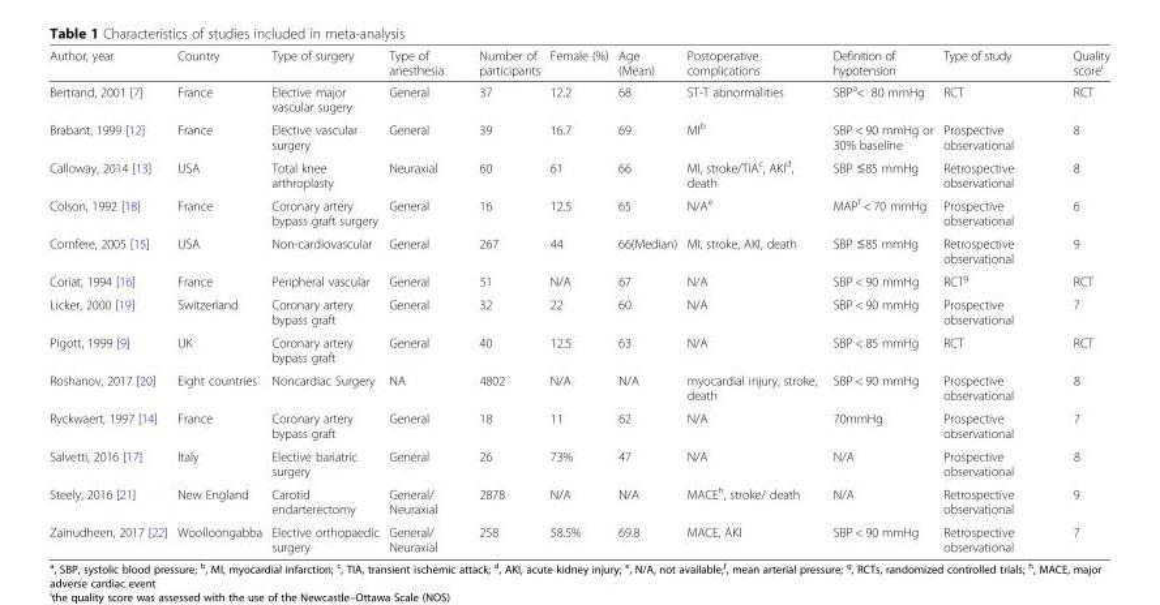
<table><thead><tr><td>Author, year</td><td>Country</td><td>Type of surgery</td><td>Type of anesthesia</td><td>Number of participants</td><td>Female (%)</td><td>Age (Mean)</td><td>Postoperative complications</td><td>Definition of hypotension</td><td>Type of study</td><td>Quality score<sup>i</sup></td></tr></thead><tbody><tr><td>Bertrand, 2001 [7]</td><td>France</td><td>Elective major vascular sugery</td><td>General</td><td>37</td><td>12.2</td><td>68</td><td>ST-T abnormalities</td><td>SBP<sup>a</sup>&lt; 80 mmHg</td><td>RCT</td><td>RCT</td></tr><tr><td>Brabant, 1999 [12]</td><td>France</td><td>Elective vascular surgery</td><td>General</td><td>39</td><td>16.7</td><td>69</td><td>MI<sup>b</sup></td><td>SBP &lt; 90 mmHg or 30% baseline</td><td>Prospective observational</td><td>8</td></tr><tr><td>Calloway, 2014 [13]</td><td>USA</td><td>Total knee arthroplasty</td><td>Neuraxial</td><td>60</td><td>61</td><td>66</td><td>MI, stroke/TIA<sup>c</sup>, AKI<sup>d</sup>, death</td><td>SBP ≤85 mmHg</td><td>Retrospective observational</td><td>8</td></tr><tr><td>Colson, 1992 [18]</td><td>France</td><td>Coronary artery bypass graft surgery</td><td>General</td><td>16</td><td>12.5</td><td>65</td><td>N/A<sup>e</sup></td><td>MAP<sup>f</sup> &lt; 70 mmHg</td><td>Prospective observational</td><td>6</td></tr><tr><td>Comfere, 2005 [15]</td><td>USA</td><td>Non-cardiovascular</td><td>General</td><td>267</td><td>44</td><td>66(Median)</td><td>MI, stroke, AKI, death</td><td>SBP ≤85 mmHg</td><td>Retrospective observational</td><td>9</td></tr><tr><td>Coriat, 1994 [16]</td><td>France</td><td>Peripheral vascular</td><td>General</td><td>51</td><td>N/A</td><td>67</td><td>N/A</td><td>SBP &lt; 90 mmHg</td><td>RCT<sup>g</sup></td><td>RCT</td></tr><tr><td>Licker, 2000 [19]</td><td>Switzerland</td><td>Coronary artery bypass graft</td><td>General</td><td>32</td><td>22</td><td>60</td><td>N/A</td><td>SBP &lt; 90 mmHg</td><td>Prospective observational</td><td>7</td></tr><tr><td>Pigott, 1999 [9]</td><td>UK</td><td>Coronary artery bypass graft</td><td>General</td><td>40</td><td>12.5</td><td>63</td><td>N/A</td><td>SBP &lt; 85 mmHg</td><td>RCT</td><td>RCT</td></tr><tr><td>Roshanov, 2017 [20]</td><td>Eight countries</td><td>Noncardiac Surgery</td><td>NA</td><td>4802</td><td>N/A</td><td>N/A</td><td>myocardial injury, stroke, death</td><td>SBP &lt; 90 mmHg</td><td>Prospective observational</td><td>8</td></tr><tr><td>Ryckwaert, 1997 [14]</td><td>France</td><td>Coronary artery bypass graft</td><td>General</td><td>18</td><td>11</td><td>62</td><td>N/A</td><td>70mmHg</td><td>Prospective observational</td><td>7</td></tr><tr><td>Salvetti, 2016 [17]</td><td>Italy</td><td>Elective bariatric surgery</td><td>General</td><td>26</td><td>73%</td><td>47</td><td>N/A</td><td>N/A</td><td>Prospective observational</td><td>8</td></tr><tr><td>Steely, 2016 [21]</td><td>New England</td><td>Carotid endarterectomy</td><td>General/ Neuraxial</td><td>2878</td><td>N/A</td><td>N/A</td><td>MACE<sup>h</sup>, stroke/ death</td><td>N/A</td><td>Retrospective observational</td><td>9</td></tr><tr><td>Zainudheen, 2017 [22]</td><td>Woolloongabba</td><td>Elective orthopaedic surgery</td><td>General/ Neuraxial</td><td>258</td><td>58.5%</td><td>69.8</td><td>MACE, AKI</td><td>SBP &lt; 90 mmHg</td><td>Retrospective observational</td><td>7</td></tr></tbody></table>